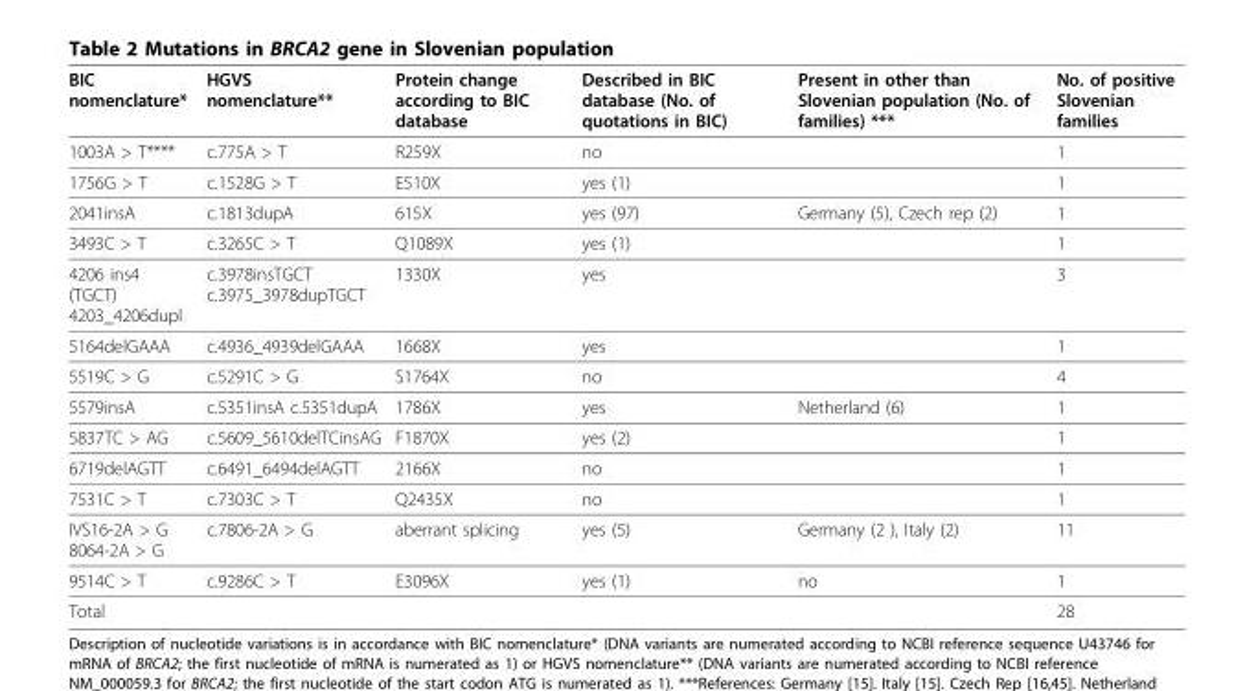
<table><thead><tr><td>BIC nomenclature*</td><td>HGVS nomenclature**</td><td>Protein change according to BIC database</td><td>Described in BIC database (No. of quotations in BIC)</td><td>Present in other than Slovenian population (No. of families) ***</td><td>No. of positive Slovenian families</td></tr></thead><tbody><tr><td>1003A &gt; T****</td><td>c.775A &gt; T</td><td>R259X</td><td>no</td><td></td><td>1</td></tr><tr><td>1756G &gt; T</td><td>c.1528G &gt; T</td><td>E510X</td><td>yes (1)</td><td></td><td>1</td></tr><tr><td>2041insA</td><td>c.1813dupA</td><td>615X</td><td>yes (97)</td><td>Germany (5), Czech rep (2)</td><td>1</td></tr><tr><td>3493C &gt; T</td><td>c.3265C &gt; T</td><td>Q1089X</td><td>yes (1)</td><td></td><td>1</td></tr><tr><td>4206 ins4 (TGCT) 4203_4206dupl</td><td>c.3978insTGCT c.3975_3978dupTGCT</td><td>1330X</td><td>yes</td><td></td><td>3</td></tr><tr><td>5164delGAAA</td><td>c.4936_4939delGAAA</td><td>1668X</td><td>yes</td><td></td><td>1</td></tr><tr><td>5519C &gt; G</td><td>c.5291C &gt; G</td><td>S1764X</td><td>no</td><td></td><td>4</td></tr><tr><td>5579insA</td><td>c.5351insA c.5351dupA</td><td>1786X</td><td>yes</td><td>Netherland (6)</td><td>1</td></tr><tr><td>5837TC &gt; AG</td><td>c.5609_5610delTCinsAG</td><td>F1870X</td><td>yes (2)</td><td></td><td>1</td></tr><tr><td>6719delAGTT</td><td>c.6491_6494delAGTT</td><td>2166X</td><td>no</td><td></td><td>1</td></tr><tr><td>7531C &gt; T</td><td>c.7303C &gt; T</td><td>Q2435X</td><td>no</td><td></td><td>1</td></tr><tr><td>IVS16-2A &gt; G 8064-2A &gt; G</td><td>c.7806-2A &gt; G</td><td>aberrant splicing</td><td>yes (5)</td><td>Germany (2 ), Italy (2)</td><td>11</td></tr><tr><td>9514C &gt; T</td><td>c.9286C &gt; T</td><td>E3096X</td><td>yes (1)</td><td>no</td><td>1</td></tr><tr><td>Total</td><td></td><td></td><td></td><td></td><td>28</td></tr></tbody></table>